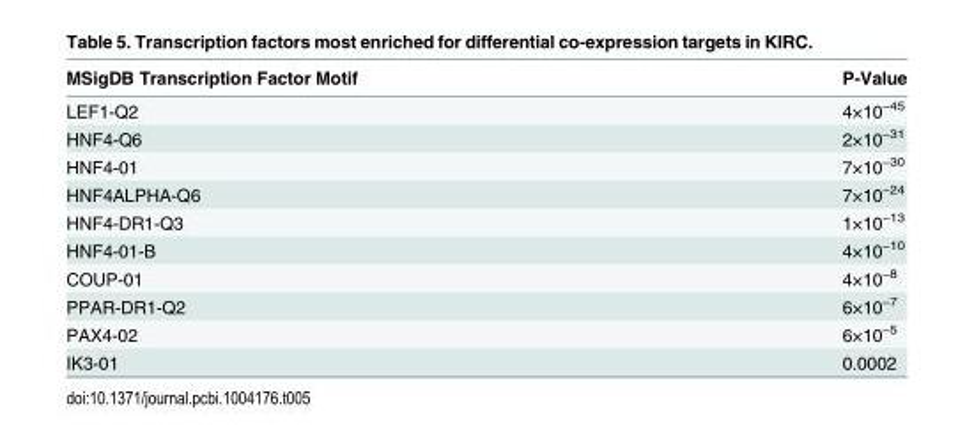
<table><thead><tr><td>MSigDB Transcription Factor Motif</td><td>P-Value</td></tr></thead><tbody><tr><td>LEF1-Q2</td><td>4×10<sup>−45</sup></td></tr><tr><td>HNF4-Q6</td><td>2×10<sup>−31</sup></td></tr><tr><td>HNF4-01</td><td>7×10<sup>−30</sup></td></tr><tr><td>HNF4ALPHA-Q6</td><td>7×10<sup>−24</sup></td></tr><tr><td>HNF4-DR1-Q3</td><td>1×10<sup>−13</sup></td></tr><tr><td>HNF4-01-B</td><td>4×10<sup>−10</sup></td></tr><tr><td>COUP-01</td><td>4×10<sup>−8</sup></td></tr><tr><td>PPAR-DR1-Q2</td><td>6×10<sup>−7</sup></td></tr><tr><td>PAX4-02</td><td>6×10<sup>−5</sup></td></tr><tr><td>IK3-01</td><td>0.0002</td></tr></tbody></table>